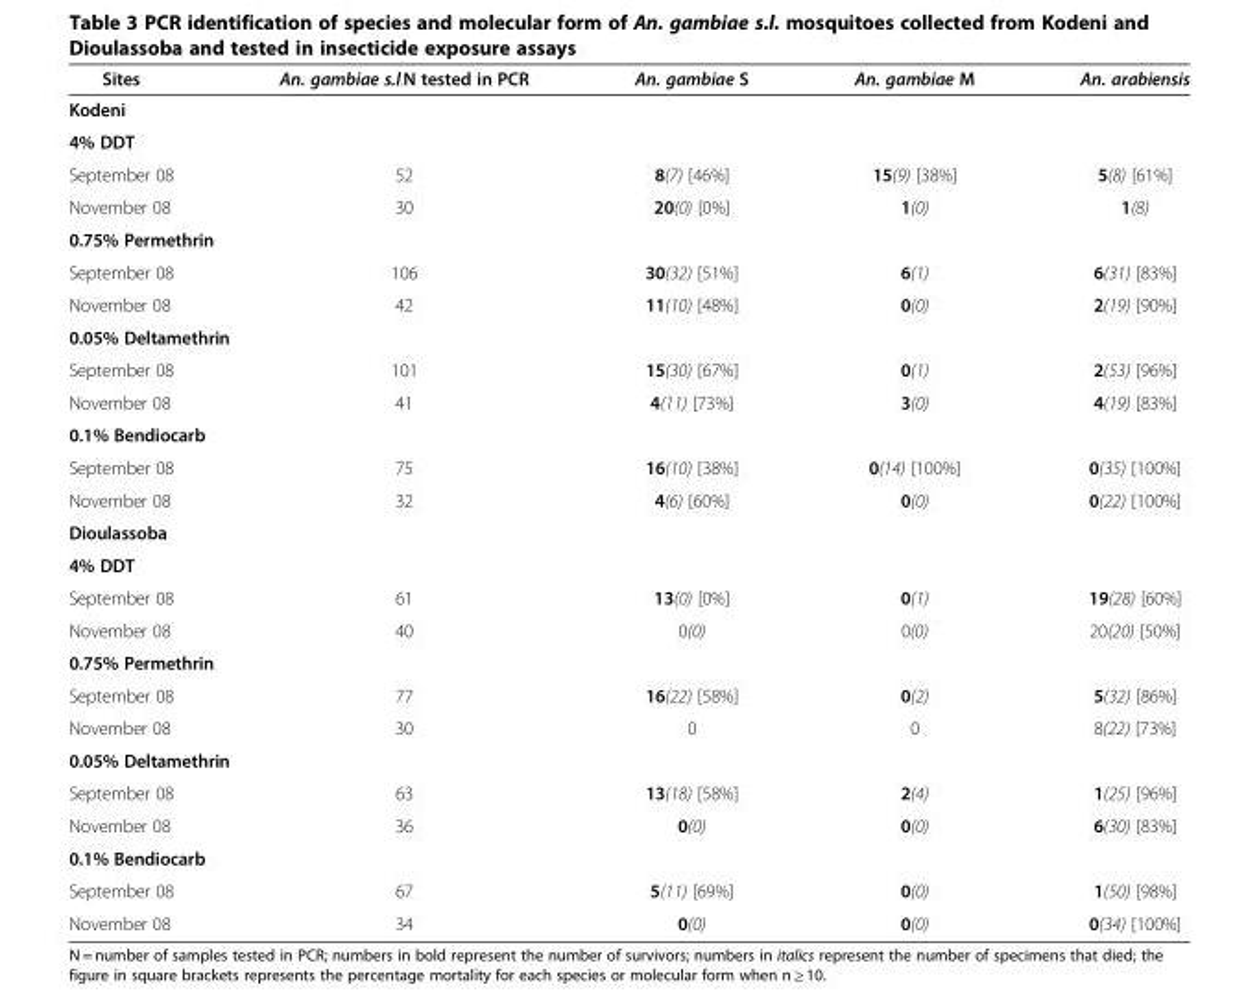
<table><thead><tr><td>Sites</td><td>An. gambiae s.l.N tested in PCR</td><td>An. gambiae S</td><td>An. gambiae M</td><td>An. arabiensis</td></tr></thead><tbody><tr><td colspan="5">Kodeni</td></tr><tr><td colspan="5">4% DDT</td></tr><tr><td>September 08</td><td>52</td><td>8(7) [46%]</td><td>15(9) [38%]</td><td>5(8) [61%]</td></tr><tr><td>November 08</td><td>30</td><td>20(0) [0%]</td><td>1(0)</td><td>1(8)</td></tr><tr><td colspan="5">0.75% Permethrin</td></tr><tr><td>September 08</td><td>106</td><td>30(32) [51%]</td><td>6(1)</td><td>6(31) [83%]</td></tr><tr><td>November 08</td><td>42</td><td>11(10) [48%]</td><td>0(0)</td><td>2(19) [90%]</td></tr><tr><td colspan="5">0.05% Deltamethrin</td></tr><tr><td>September 08</td><td>101</td><td>15(30) [67%]</td><td>0(1)</td><td>2(53) [96%]</td></tr><tr><td>November 08</td><td>41</td><td>4(11) [73%]</td><td>3(0)</td><td>4(19) [83%]</td></tr><tr><td colspan="5">0.1% Bendiocarb</td></tr><tr><td>September 08</td><td>75</td><td>16(10) [38%]</td><td>0(14) [100%]</td><td>0(35) [100%]</td></tr><tr><td>November 08</td><td>32</td><td>4(6) [60%]</td><td>0(0)</td><td>0(22) [100%]</td></tr><tr><td colspan="5">Dioulassoba</td></tr><tr><td colspan="5">4% DDT</td></tr><tr><td>September 08</td><td>61</td><td>13(0) [0%]</td><td>0(1)</td><td>19(28) [60%]</td></tr><tr><td>November 08</td><td>40</td><td>0(0)</td><td>0(0)</td><td>20(20) [50%]</td></tr><tr><td colspan="5">0.75% Permethrin</td></tr><tr><td>September 08</td><td>77</td><td>16(22) [58%]</td><td>0(2)</td><td>5(32) [86%]</td></tr><tr><td>November 08</td><td>30</td><td>0</td><td>0</td><td>8(22) [73%]</td></tr><tr><td colspan="5">0.05% Deltamethrin</td></tr><tr><td>September 08</td><td>63</td><td>13(18) [58%]</td><td>2(4)</td><td>1(25) [96%]</td></tr><tr><td>November 08</td><td>36</td><td>0(0)</td><td>0(0)</td><td>6(30) [83%]</td></tr><tr><td colspan="5">0.1% Bendiocarb</td></tr><tr><td>September 08</td><td>67</td><td>5(11) [69%]</td><td>0(0)</td><td>1(50) [98%]</td></tr><tr><td>November 08</td><td>34</td><td>0(0)</td><td>0(0)</td><td>0(34) [100%]</td></tr></tbody></table>